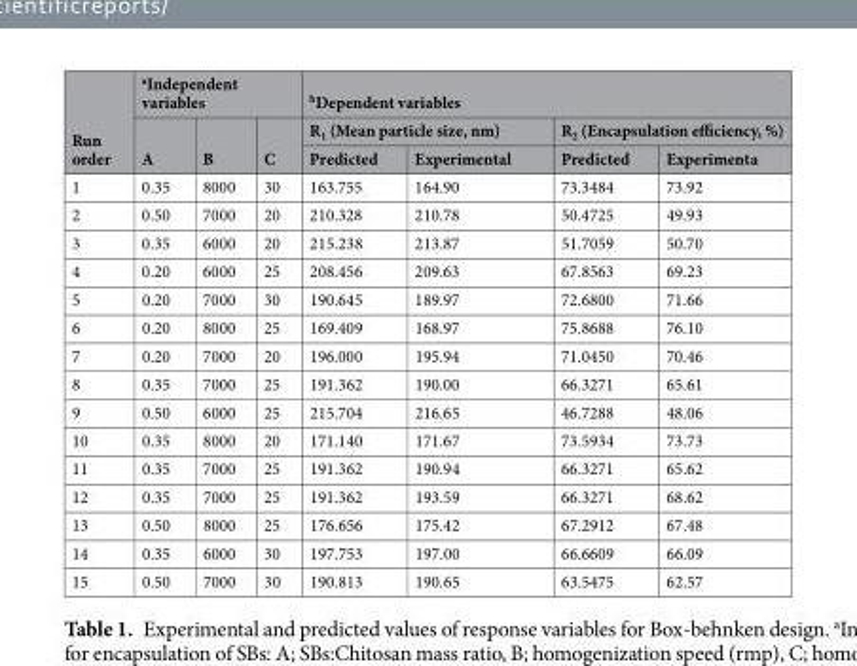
<table><thead><tr><td rowspan="3">Run order</td><td colspan="3"><sup>a</sup>Independent variables</td><td colspan="4"><sup>b</sup>Dependent variables</td></tr><tr><td rowspan="2">A</td><td rowspan="2">B</td><td rowspan="2">C</td><td colspan="2">R<sub>1</sub> (Mean particle size, nm)</td><td colspan="2">R<sub>2</sub> (Encapsulation efficiency, %)</td></tr><tr><td>Predicted</td><td>Experimental</td><td>Predicted</td><td>Experimenta</td></tr></thead><tbody><tr><td>1</td><td>0.35</td><td>8000</td><td>30</td><td>163.755</td><td>164.90</td><td>73.3484</td><td>73.92</td></tr><tr><td>2</td><td>0.50</td><td>7000</td><td>20</td><td>210.328</td><td>210.78</td><td>50.4725</td><td>49.93</td></tr><tr><td>3</td><td>0.35</td><td>6000</td><td>20</td><td>215.238</td><td>213.87</td><td>51.7059</td><td>50.70</td></tr><tr><td>4</td><td>0.20</td><td>6000</td><td>25</td><td>208.456</td><td>209.63</td><td>67.8563</td><td>69.23</td></tr><tr><td>5</td><td>0.20</td><td>7000</td><td>30</td><td>190.645</td><td>189.97</td><td>72.6800</td><td>71.66</td></tr><tr><td>6</td><td>0.20</td><td>8000</td><td>25</td><td>169.409</td><td>168.97</td><td>75.8688</td><td>76.10</td></tr><tr><td>7</td><td>0.20</td><td>7000</td><td>20</td><td>196.000</td><td>195.94</td><td>71.0450</td><td>70.46</td></tr><tr><td>8</td><td>0.35</td><td>7000</td><td>25</td><td>191.362</td><td>190.00</td><td>66.3271</td><td>65.61</td></tr><tr><td>9</td><td>0.50</td><td>6000</td><td>25</td><td>215.704</td><td>216.65</td><td>46.7288</td><td>48.06</td></tr><tr><td>10</td><td>0.35</td><td>8000</td><td>20</td><td>171.140</td><td>171.67</td><td>73.5934</td><td>73.73</td></tr><tr><td>11</td><td>0.35</td><td>7000</td><td>25</td><td>191.362</td><td>190.94</td><td>66.3271</td><td>65.62</td></tr><tr><td>12</td><td>0.35</td><td>7000</td><td>25</td><td>191.362</td><td>193.59</td><td>66.3271</td><td>68.62</td></tr><tr><td>13</td><td>0.50</td><td>8000</td><td>25</td><td>176.656</td><td>175.42</td><td>67.2912</td><td>67.48</td></tr><tr><td>14</td><td>0.35</td><td>6000</td><td>30</td><td>197.753</td><td>197.00</td><td>66.6609</td><td>66.09</td></tr><tr><td>15</td><td>0.50</td><td>7000</td><td>30</td><td>190.813</td><td>190.65</td><td>63.5475</td><td>62.57</td></tr></tbody></table>